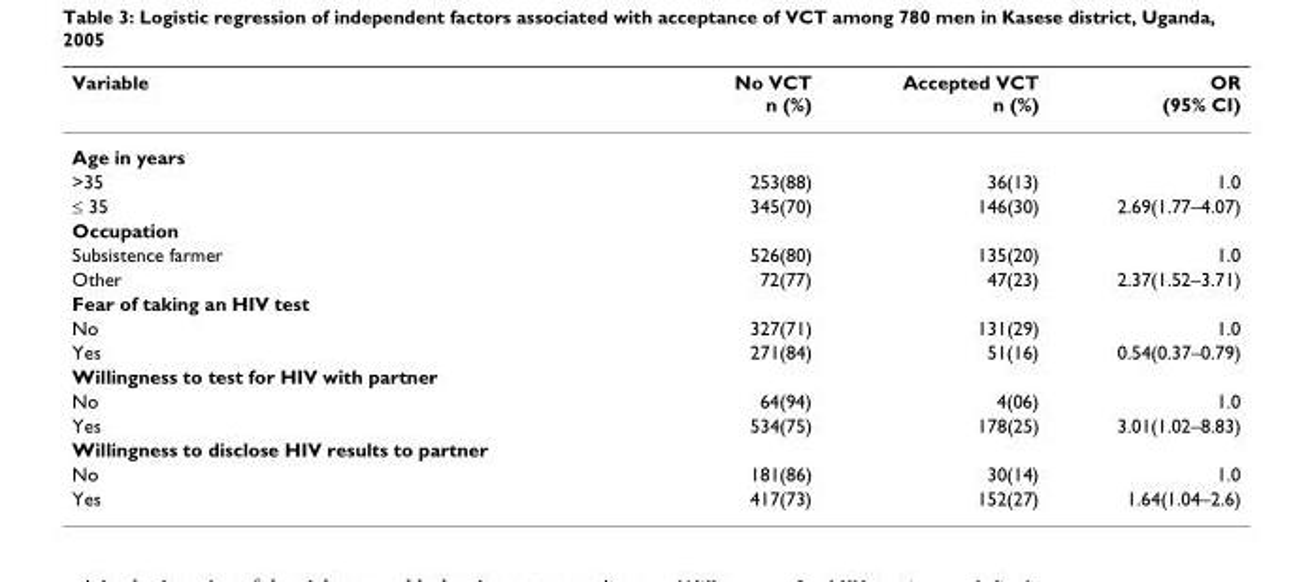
<table><thead><tr><td>Variable</td><td>No VCT n (%)</td><td>Accepted VCT n (%)</td><td>OR (95% CI)</td></tr></thead><tbody><tr><td colspan="4">Age in years</td></tr><tr><td>&gt;35</td><td>253(88)</td><td>36(13)</td><td>1.0</td></tr><tr><td>≤ 35</td><td>345(70)</td><td>146(30)</td><td>2.69(1.77–4.07)</td></tr><tr><td colspan="4">Occupation</td></tr><tr><td>Subsistence farmer</td><td>526(80)</td><td>135(20)</td><td>1.0</td></tr><tr><td>Other</td><td>72(77)</td><td>47(23)</td><td>2.37(1.52–3.71)</td></tr><tr><td colspan="4">Fear of taking an HIV test</td></tr><tr><td>No</td><td>327(71)</td><td>131(29)</td><td>1.0</td></tr><tr><td>Yes</td><td>271(84)</td><td>51(16)</td><td>0.54(0.37–0.79)</td></tr><tr><td colspan="4">Willingness to test for HIV with partner</td></tr><tr><td>No</td><td>64(94)</td><td>4(06)</td><td>1.0</td></tr><tr><td>Yes</td><td>534(75)</td><td>178(25)</td><td>3.01(1.02–8.83)</td></tr><tr><td colspan="4">Willingness to disclose HIV results to partner</td></tr><tr><td>No</td><td>181(86)</td><td>30(14)</td><td>1.0</td></tr><tr><td>Yes</td><td>417(73)</td><td>152(27)</td><td>1.64(1.04–2.6)</td></tr></tbody></table>